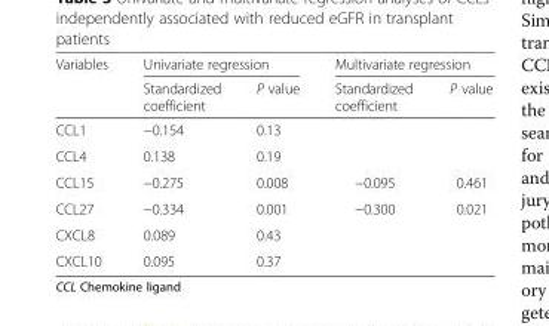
<table><thead><tr><td rowspan="2">Variables</td><td colspan="2">Univariate regression</td><td colspan="2">Multivariate regression</td></tr><tr><td>Standardized coefficient</td><td>P value</td><td>Standardized coefficient</td><td>P value</td></tr></thead><tbody><tr><td>CCL1</td><td>−0.154</td><td>0.13</td><td></td><td></td></tr><tr><td>CCL4</td><td>0.138</td><td>0.19</td><td></td><td></td></tr><tr><td>CCL15</td><td>−0.275</td><td>0.008</td><td>−0.095</td><td>0.461</td></tr><tr><td>CCL27</td><td>−0.334</td><td>0.001</td><td>−0.300</td><td>0.021</td></tr><tr><td>CXCL8</td><td>0.089</td><td>0.43</td><td></td><td></td></tr><tr><td>CXCL10</td><td>0.095</td><td>0.37</td><td></td><td></td></tr></tbody></table>